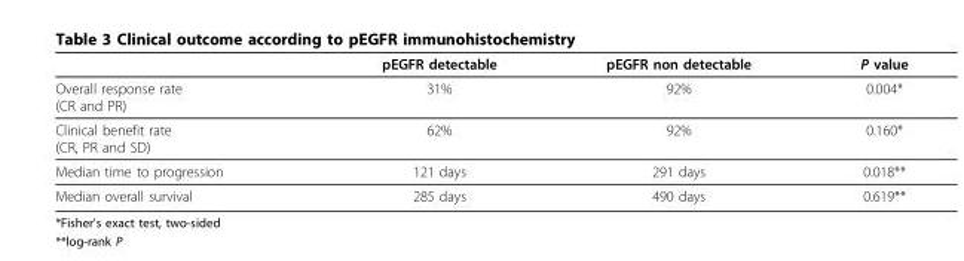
<table><thead><tr><td></td><td>pEGFR detectable</td><td>pEGFR non detectable</td><td>P value</td></tr></thead><tbody><tr><td>Overall response rate (CR and PR)</td><td>31%</td><td>92%</td><td>0.004*</td></tr><tr><td>Clinical benefit rate (CR, PR and SD)</td><td>62%</td><td>92%</td><td>0.160*</td></tr><tr><td>Median time to progression</td><td>121 days</td><td>291 days</td><td>0.018**</td></tr><tr><td>Median overall survival</td><td>285 days</td><td>490 days</td><td>0.619**</td></tr></tbody></table>